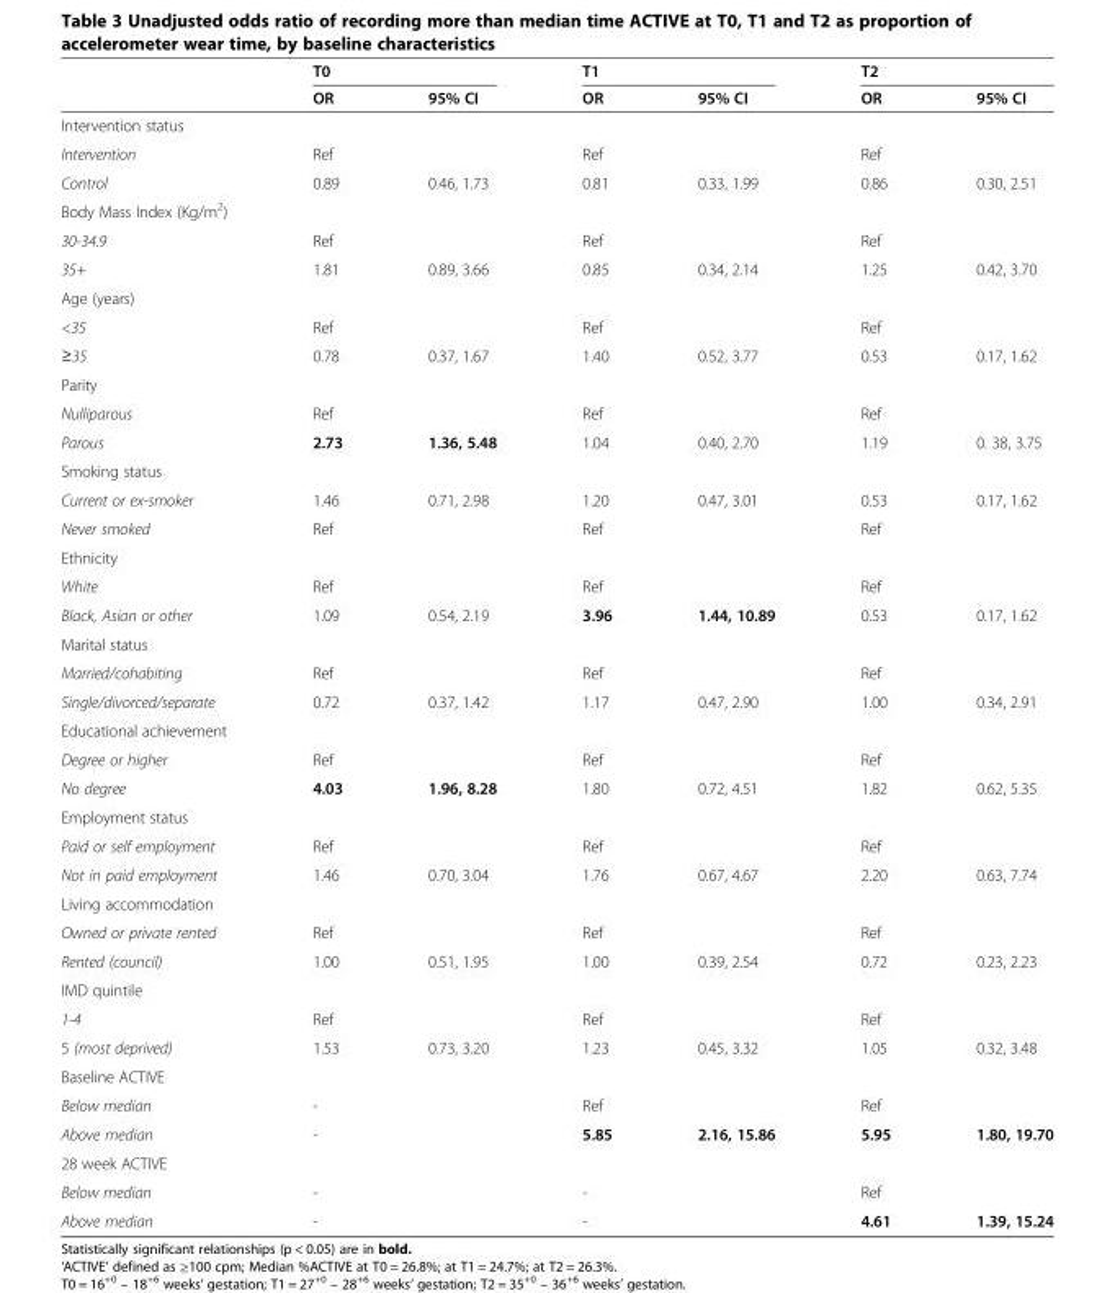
<table><thead><tr><td rowspan="2"></td><td colspan="2">T0</td><td colspan="2">T1</td><td colspan="2">T2</td></tr><tr><td>OR</td><td>95% CI</td><td>OR</td><td>95% CI</td><td>OR</td><td>95% CI</td></tr></thead><tbody><tr><td colspan="7">Intervention status</td></tr><tr><td>Intervention</td><td>Ref</td><td></td><td>Ref</td><td></td><td>Ref</td><td></td></tr><tr><td>Control</td><td>0.89</td><td>0.46, 1.73</td><td>0.81</td><td>0.33, 1.99</td><td>0.86</td><td>0.30, 2.51</td></tr><tr><td colspan="7">Body Mass Index (Kg/m<sup>2</sup>)</td></tr><tr><td>30-34.9</td><td>Ref</td><td></td><td>Ref</td><td></td><td>Ref</td><td></td></tr><tr><td>35+</td><td>1.81</td><td>0.89, 3.66</td><td>0.85</td><td>0.34, 2.14</td><td>1.25</td><td>0.42, 3.70</td></tr><tr><td colspan="7">Age (years)</td></tr><tr><td>&lt;35</td><td>Ref</td><td></td><td>Ref</td><td></td><td>Ref</td><td></td></tr><tr><td>≥35</td><td>0.78</td><td>0.37, 1.67</td><td>1.40</td><td>0.52, 3.77</td><td>0.53</td><td>0.17, 1.62</td></tr><tr><td colspan="7">Parity</td></tr><tr><td>Nulliparous</td><td>Ref</td><td></td><td>Ref</td><td></td><td>Ref</td><td></td></tr><tr><td>Parous</td><td>2.73</td><td>1.36, 5.48</td><td>1.04</td><td>0.40, 2.70</td><td>1.19</td><td>0. 38, 3.75</td></tr><tr><td colspan="7">Smoking status</td></tr><tr><td>Current or ex-smoker</td><td>1.46</td><td>0.71, 2.98</td><td>1.20</td><td>0.47, 3.01</td><td>0.53</td><td>0.17, 1.62</td></tr><tr><td>Never smoked</td><td>Ref</td><td></td><td>Ref</td><td></td><td>Ref</td><td></td></tr><tr><td colspan="7">Ethnicity</td></tr><tr><td>White</td><td>Ref</td><td></td><td>Ref</td><td></td><td>Ref</td><td></td></tr><tr><td>Black, Asian or other</td><td>1.09</td><td>0.54, 2.19</td><td>3.96</td><td>1.44, 10.89</td><td>0.53</td><td>0.17, 1.62</td></tr><tr><td colspan="7">Marital status</td></tr><tr><td>Married/cohabiting</td><td>Ref</td><td></td><td>Ref</td><td></td><td>Ref</td><td></td></tr><tr><td>Single/divorced/separate</td><td>0.72</td><td>0.37, 1.42</td><td>1.17</td><td>0.47, 2.90</td><td>1.00</td><td>0.34, 2.91</td></tr><tr><td colspan="7">Educational achievement</td></tr><tr><td>Degree or higher</td><td>Ref</td><td></td><td>Ref</td><td></td><td>Ref</td><td></td></tr><tr><td>No degree</td><td>4.03</td><td>1.96, 8.28</td><td>1.80</td><td>0.72, 4.51</td><td>1.82</td><td>0.62, 5.35</td></tr><tr><td colspan="7">Employment status</td></tr><tr><td>Paid or self employment</td><td>Ref</td><td></td><td>Ref</td><td></td><td>Ref</td><td></td></tr><tr><td>Not in paid employment</td><td>1.46</td><td>0.70, 3.04</td><td>1.76</td><td>0.67, 4.67</td><td>2.20</td><td>0.63, 7.74</td></tr><tr><td colspan="7">Living accommodation</td></tr><tr><td>Owned or private rented</td><td>Ref</td><td></td><td>Ref</td><td></td><td>Ref</td><td></td></tr><tr><td>Rented (council)</td><td>1.00</td><td>0.51, 1.95</td><td>1.00</td><td>0.39, 2.54</td><td>0.72</td><td>0.23, 2.23</td></tr><tr><td colspan="7">IMD quintile</td></tr><tr><td>1-4</td><td>Ref</td><td></td><td>Ref</td><td></td><td>Ref</td><td></td></tr><tr><td>5 (most deprived)</td><td>1.53</td><td>0.73, 3.20</td><td>1.23</td><td>0.45, 3.32</td><td>1.05</td><td>0.32, 3.48</td></tr><tr><td colspan="7">Baseline ACTIVE</td></tr><tr><td>Below median</td><td>-</td><td></td><td>Ref</td><td></td><td>Ref</td><td></td></tr><tr><td>Above median</td><td>-</td><td></td><td>5.85</td><td>2.16, 15.86</td><td>5.95</td><td>1.80, 19.70</td></tr><tr><td colspan="7">28 week ACTIVE</td></tr><tr><td>Below median</td><td>-</td><td></td><td>-</td><td></td><td>Ref</td><td></td></tr><tr><td>Above median</td><td>-</td><td></td><td>-</td><td></td><td>4.61</td><td>1.39, 15.24</td></tr></tbody></table>